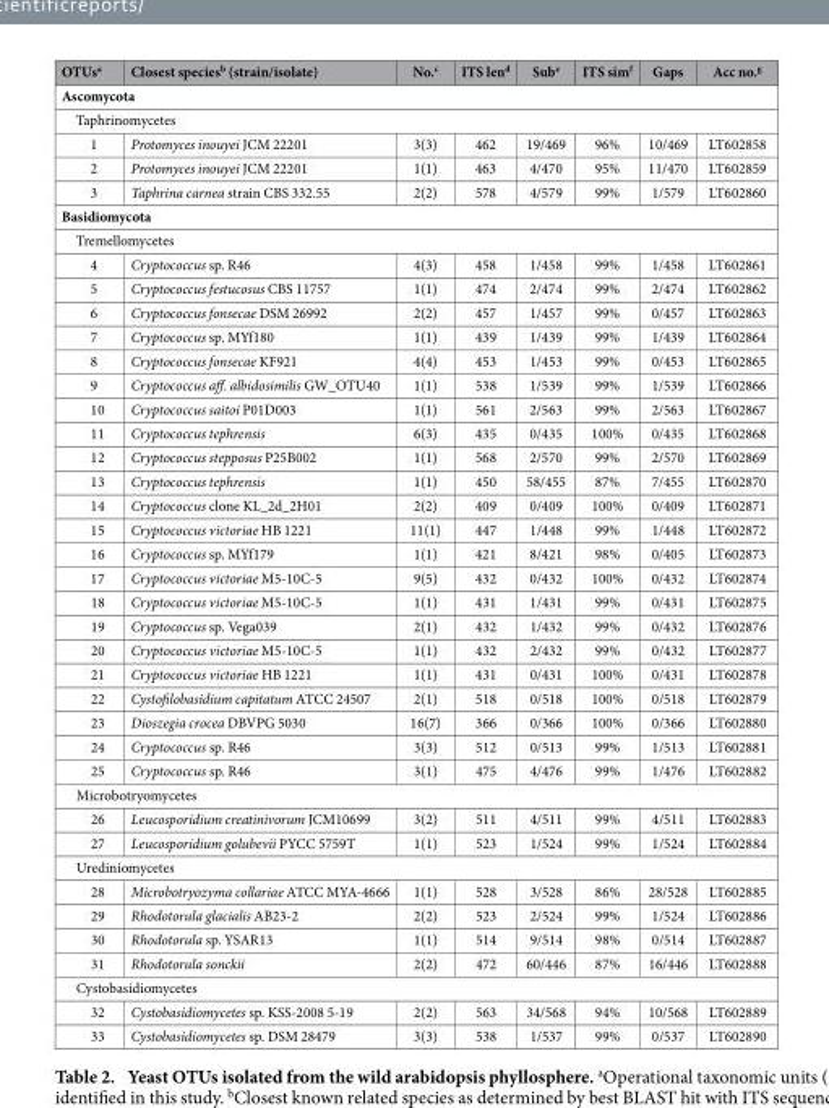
<table><thead><tr><td>OTUs<sup>a</sup></td><td>Closest species<sup>b</sup> (strain/isolate)</td><td>No.<sup>c</sup></td><td>ITS len<sup>d</sup></td><td>Sub<sup>e</sup></td><td>ITS sim<sup>f</sup></td><td>Gaps</td><td>Acc no.<sup>g</sup></td></tr></thead><tbody><tr><td colspan="8">Ascomycota</td></tr><tr><td colspan="8">Taphrinomycetes</td></tr><tr><td>1</td><td>Protomyces inouyei JCM 22201</td><td>3(3)</td><td>462</td><td>19/469</td><td>96%</td><td>10/469</td><td>LT602858</td></tr><tr><td>2</td><td>Protomyces inouyei JCM 22201</td><td>1(1)</td><td>463</td><td>4/470</td><td>95%</td><td>11/470</td><td>LT602859</td></tr><tr><td>3</td><td>Taphrina carnea strain CBS 332.55</td><td>2(2)</td><td>578</td><td>4/579</td><td>99%</td><td>1/579</td><td>LT602860</td></tr><tr><td colspan="8">Basidiomycota</td></tr><tr><td colspan="8">Tremellomycetes</td></tr><tr><td>4</td><td>Cryptococcus sp. R46</td><td>4(3)</td><td>458</td><td>1/458</td><td>99%</td><td>1/458</td><td>LT602861</td></tr><tr><td>5</td><td>Cryptococcus festucosus CBS 11757</td><td>1(1)</td><td>474</td><td>2/474</td><td>99%</td><td>2/474</td><td>LT602862</td></tr><tr><td>6</td><td>Cryptococcus fonsecae DSM 26992</td><td>2(2)</td><td>457</td><td>1/457</td><td>99%</td><td>0/457</td><td>LT602863</td></tr><tr><td>7</td><td>Cryptococcus sp. MYf180</td><td>1(1)</td><td>439</td><td>1/439</td><td>99%</td><td>1/439</td><td>LT602864</td></tr><tr><td>8</td><td>Cryptococcus fonsecae KF921</td><td>4(4)</td><td>453</td><td>1/453</td><td>99%</td><td>0/453</td><td>LT602865</td></tr><tr><td>9</td><td>Cryptococcus aff. albidosimilis GW_OTU40</td><td>1(1)</td><td>538</td><td>1/539</td><td>99%</td><td>1/539</td><td>LT602866</td></tr><tr><td>10</td><td>Cryptococcus saitoi P01D003</td><td>1(1)</td><td>561</td><td>2/563</td><td>99%</td><td>2/563</td><td>LT602867</td></tr><tr><td>11</td><td>Cryptococcus tephrensis</td><td>6(3)</td><td>435</td><td>0/435</td><td>100%</td><td>0/435</td><td>LT602868</td></tr><tr><td>12</td><td>Cryptococcus stepposus P25B002</td><td>1(1)</td><td>568</td><td>2/570</td><td>99%</td><td>2/570</td><td>LT602869</td></tr><tr><td>13</td><td>Cryptococcus tephrensis</td><td>1(1)</td><td>450</td><td>58/455</td><td>87%</td><td>7/455</td><td>LT602870</td></tr><tr><td>14</td><td>Cryptococcus clone KL_2d_2H01</td><td>2(2)</td><td>409</td><td>0/409</td><td>100%</td><td>0/409</td><td>LT602871</td></tr><tr><td>15</td><td>Cryptococcus victoriae HB 1221</td><td>11(1)</td><td>447</td><td>1/448</td><td>99%</td><td>1/448</td><td>LT602872</td></tr><tr><td>16</td><td>Cryptococcus sp. MYf179</td><td>1(1)</td><td>421</td><td>8/421</td><td>98%</td><td>0/405</td><td>LT602873</td></tr><tr><td>17</td><td>Cryptococcus victoriae M5-10C-5</td><td>9(5)</td><td>432</td><td>0/432</td><td>100%</td><td>0/432</td><td>LT602874</td></tr><tr><td>18</td><td>Cryptococcus victoriae M5-10C-5</td><td>1(1)</td><td>431</td><td>1/431</td><td>99%</td><td>0/431</td><td>LT602875</td></tr><tr><td>19</td><td>Cryptococcus sp. Vega039</td><td>2(1)</td><td>432</td><td>1/432</td><td>99%</td><td>0/432</td><td>LT602876</td></tr><tr><td>20</td><td>Cryptococcus victoriae M5-10C-5</td><td>1(1)</td><td>432</td><td>2/432</td><td>99%</td><td>0/432</td><td>LT602877</td></tr><tr><td>21</td><td>Cryptococcus victoriae HB 1221</td><td>1(1)</td><td>431</td><td>0/431</td><td>100%</td><td>0/431</td><td>LT602878</td></tr><tr><td>22</td><td>Cystofilobasidium capitatum ATCC 24507</td><td>2(1)</td><td>518</td><td>0/518</td><td>100%</td><td>0/518</td><td>LT602879</td></tr><tr><td>23</td><td>Dioszegia crocea DBVPG 5030</td><td>16(7)</td><td>366</td><td>0/366</td><td>100%</td><td>0/366</td><td>LT602880</td></tr><tr><td>24</td><td>Cryptococcus sp. R46</td><td>3(3)</td><td>512</td><td>0/513</td><td>99%</td><td>1/513</td><td>LT602881</td></tr><tr><td>25</td><td>Cryptococcus sp. R46</td><td>3(1)</td><td>475</td><td>4/476</td><td>99%</td><td>1/476</td><td>LT602882</td></tr><tr><td colspan="8">Microbotryomycetes</td></tr><tr><td>26</td><td>Leucosporidium creatinivorum JCM10699</td><td>3(2)</td><td>511</td><td>4/511</td><td>99%</td><td>4/511</td><td>LT602883</td></tr><tr><td>27</td><td>Leucosporidium golubevii PYCC 5759T</td><td>1(1)</td><td>523</td><td>1/524</td><td>99%</td><td>1/524</td><td>LT602884</td></tr><tr><td colspan="8">Urediniomycetes</td></tr><tr><td>28</td><td>Microbotryozyma collariae ATCC MYA-4666</td><td>1(1)</td><td>528</td><td>3/528</td><td>86%</td><td>28/528</td><td>LT602885</td></tr><tr><td>29</td><td>Rhodotorula glacialis AB23-2</td><td>2(2)</td><td>523</td><td>2/524</td><td>99%</td><td>1/524</td><td>LT602886</td></tr><tr><td>30</td><td>Rhodotorula sp. YSAR13</td><td>1(1)</td><td>514</td><td>9/514</td><td>98%</td><td>0/514</td><td>LT602887</td></tr><tr><td>31</td><td>Rhodotorula sonckii</td><td>2(2)</td><td>472</td><td>60/446</td><td>87%</td><td>16/446</td><td>LT602888</td></tr><tr><td colspan="8">Cystobasidiomycetes</td></tr><tr><td>32</td><td>Cystobasidiomycetes sp. KSS-2008 5-19</td><td>2(2)</td><td>563</td><td>34/568</td><td>94%</td><td>10/568</td><td>LT602889</td></tr><tr><td>33</td><td>Cystobasidiomycetes sp. DSM 28479</td><td>3(3)</td><td>538</td><td>1/537</td><td>99%</td><td>0/537</td><td>LT602890</td></tr></tbody></table>